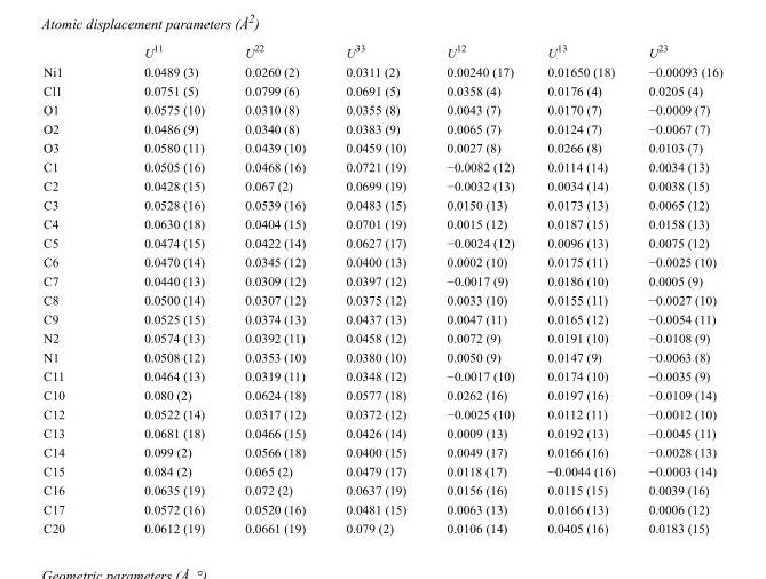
<table><thead><tr><td></td><td>U<sup>11</sup></td><td>U<sup>22</sup></td><td>U<sup>33</sup></td><td>U<sup>12</sup></td><td>U<sup>13</sup></td><td>U<sup>23</sup></td></tr></thead><tbody><tr><td>Ni1</td><td>0.0489 (3)</td><td>0.0260 (2)</td><td>0.0311 (2)</td><td>0.00240 (17)</td><td>0.01650 (18)</td><td>−0.00093 (16)</td></tr><tr><td>Cl1</td><td>0.0751 (5)</td><td>0.0799 (6)</td><td>0.0691 (5)</td><td>0.0358 (4)</td><td>0.0176 (4)</td><td>0.0205 (4)</td></tr><tr><td>O1</td><td>0.0575 (10)</td><td>0.0310 (8)</td><td>0.0355 (8)</td><td>0.0043 (7)</td><td>0.0170 (7)</td><td>−0.0009 (7)</td></tr><tr><td>O2</td><td>0.0486 (9)</td><td>0.0340 (8)</td><td>0.0383 (9)</td><td>0.0065 (7)</td><td>0.0124 (7)</td><td>−0.0067 (7)</td></tr><tr><td>O3</td><td>0.0580 (11)</td><td>0.0439 (10)</td><td>0.0459 (10)</td><td>0.0027 (8)</td><td>0.0266 (8)</td><td>0.0103 (7)</td></tr><tr><td>C1</td><td>0.0505 (16)</td><td>0.0468 (16)</td><td>0.0721 (19)</td><td>−0.0082 (12)</td><td>0.0114 (14)</td><td>0.0034 (13)</td></tr><tr><td>C2</td><td>0.0428 (15)</td><td>0.067 (2)</td><td>0.0699 (19)</td><td>−0.0032 (13)</td><td>0.0034 (14)</td><td>0.0038 (15)</td></tr><tr><td>C3</td><td>0.0528 (16)</td><td>0.0539 (16)</td><td>0.0483 (15)</td><td>0.0150 (13)</td><td>0.0173 (13)</td><td>0.0065 (12)</td></tr><tr><td>C4</td><td>0.0630 (18)</td><td>0.0404 (15)</td><td>0.0701 (19)</td><td>0.0015 (12)</td><td>0.0187 (15)</td><td>0.0158 (13)</td></tr><tr><td>C5</td><td>0.0474 (15)</td><td>0.0422 (14)</td><td>0.0627 (17)</td><td>−0.0024 (12)</td><td>0.0096 (13)</td><td>0.0075 (12)</td></tr><tr><td>C6</td><td>0.0470 (14)</td><td>0.0345 (12)</td><td>0.0400 (13)</td><td>0.0002 (10)</td><td>0.0175 (11)</td><td>−0.0025 (10)</td></tr><tr><td>C7</td><td>0.0440 (13)</td><td>0.0309 (12)</td><td>0.0397 (12)</td><td>−0.0017 (9)</td><td>0.0186 (10)</td><td>0.0005 (9)</td></tr><tr><td>C8</td><td>0.0500 (14)</td><td>0.0307 (12)</td><td>0.0375 (12)</td><td>0.0033 (10)</td><td>0.0155 (11)</td><td>−0.0027 (10)</td></tr><tr><td>C9</td><td>0.0525 (15)</td><td>0.0374 (13)</td><td>0.0437 (13)</td><td>0.0047 (11)</td><td>0.0165 (12)</td><td>−0.0054 (11)</td></tr><tr><td>N2</td><td>0.0574 (13)</td><td>0.0392 (11)</td><td>0.0458 (12)</td><td>0.0072 (9)</td><td>0.0191 (10)</td><td>−0.0108 (9)</td></tr><tr><td>N1</td><td>0.0508 (12)</td><td>0.0353 (10)</td><td>0.0380 (10)</td><td>0.0050 (9)</td><td>0.0147 (9)</td><td>−0.0063 (8)</td></tr><tr><td>C11</td><td>0.0464 (13)</td><td>0.0319 (11)</td><td>0.0348 (12)</td><td>−0.0017 (10)</td><td>0.0174 (10)</td><td>−0.0035 (9)</td></tr><tr><td>C10</td><td>0.080 (2)</td><td>0.0624 (18)</td><td>0.0577 (18)</td><td>0.0262 (16)</td><td>0.0197 (16)</td><td>−0.0109 (14)</td></tr><tr><td>C12</td><td>0.0522 (14)</td><td>0.0317 (12)</td><td>0.0372 (12)</td><td>−0.0025 (10)</td><td>0.0112 (11)</td><td>−0.0012 (10)</td></tr><tr><td>C13</td><td>0.0681 (18)</td><td>0.0466 (15)</td><td>0.0426 (14)</td><td>0.0009 (13)</td><td>0.0192 (13)</td><td>−0.0045 (11)</td></tr><tr><td>C14</td><td>0.099 (2)</td><td>0.0566 (18)</td><td>0.0400 (15)</td><td>0.0049 (17)</td><td>0.0166 (16)</td><td>−0.0028 (13)</td></tr><tr><td>C15</td><td>0.084 (2)</td><td>0.065 (2)</td><td>0.0479 (17)</td><td>0.0118 (17)</td><td>−0.0044 (16)</td><td>−0.0003 (14)</td></tr><tr><td>C16</td><td>0.0635 (19)</td><td>0.072 (2)</td><td>0.0637 (19)</td><td>0.0156 (16)</td><td>0.0115 (15)</td><td>0.0039 (16)</td></tr><tr><td>C17</td><td>0.0572 (16)</td><td>0.0520 (16)</td><td>0.0481 (15)</td><td>0.0063 (13)</td><td>0.0166 (13)</td><td>0.0006 (12)</td></tr><tr><td>C20</td><td>0.0612 (19)</td><td>0.0661 (19)</td><td>0.079 (2)</td><td>0.0106 (14)</td><td>0.0405 (16)</td><td>0.0183 (15)</td></tr></tbody></table>